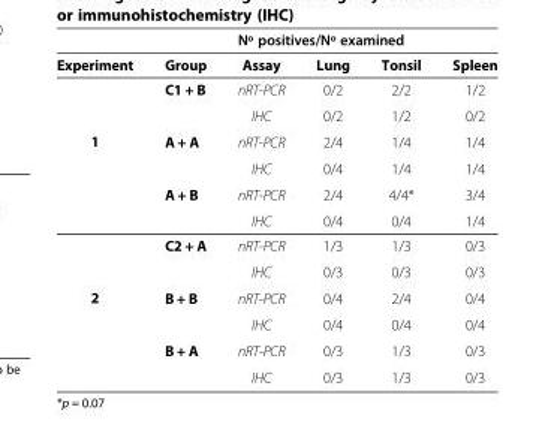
<table><tbody><tr><td>Experiment</td><td>Group</td><td>Assay</td><td>Lung</td><td>Tonsil</td><td>Spleen</td></tr><tr><td rowspan="6">1</td><td rowspan="2">C1 + B</td><td>nRT-PCR</td><td>0/2</td><td>2/2</td><td>1/2</td></tr><tr><td>IHC</td><td>0/2</td><td>1/2</td><td>0/2</td></tr><tr><td rowspan="2">A + A</td><td>nRT-PCR</td><td>2/4</td><td>1/4</td><td>1/4</td></tr><tr><td>IHC</td><td>0/4</td><td>1/4</td><td>1/4</td></tr><tr><td rowspan="2">A + B</td><td>nRT-PCR</td><td>2/4</td><td>4/4*</td><td>3/4</td></tr><tr><td>IHC</td><td>0/4</td><td>0/4</td><td>1/4</td></tr><tr><td rowspan="6">2</td><td rowspan="2">C2 + A</td><td>nRT-PCR</td><td>1/3</td><td>1/3</td><td>0/3</td></tr><tr><td>IHC</td><td>0/3</td><td>0/3</td><td>0/3</td></tr><tr><td rowspan="2">B + B</td><td>nRT-PCR</td><td>0/4</td><td>2/4</td><td>0/4</td></tr><tr><td>IHC</td><td>0/4</td><td>0/4</td><td>0/4</td></tr><tr><td rowspan="2">B + A</td><td>nRT-PCR</td><td>0/3</td><td>1/3</td><td>0/3</td></tr><tr><td>IHC</td><td>0/3</td><td>1/3</td><td>0/3</td></tr></tbody></table>